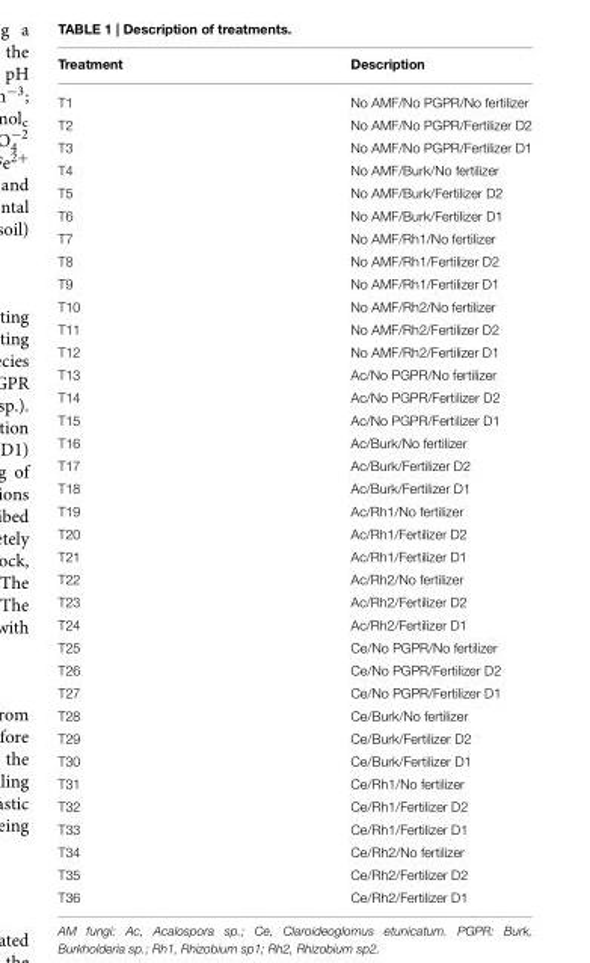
<table><thead><tr><td>Treatment</td><td>Description</td></tr></thead><tbody><tr><td>T1</td><td>No AMF/No PGPR/No fertilizer</td></tr><tr><td>T2</td><td>No AMF/No PGPR/Fertilizer D2</td></tr><tr><td>T3</td><td>No AMF/No PGPR/Fertilizer D1</td></tr><tr><td>T4</td><td>No AMF/Burk/No fertilizer</td></tr><tr><td>T5</td><td>No AMF/Burk/Fertilizer D2</td></tr><tr><td>T6</td><td>No AMF/Burk/Fertilizer D1</td></tr><tr><td>T7</td><td>No AMF/Rh1/No fertilizer</td></tr><tr><td>T8</td><td>No AMF/Rh1/Fertilizer D2</td></tr><tr><td>T9</td><td>No AMF/Rh1/Fertilizer D1</td></tr><tr><td>T10</td><td>No AMF/Rh2/No fertilizer</td></tr><tr><td>T11</td><td>No AMF/Rh2/Fertilizer D2</td></tr><tr><td>T12</td><td>No AMF/Rh2/Fertilizer D1</td></tr><tr><td>T13</td><td>Ac/No PGPR/No fertilizer</td></tr><tr><td>T14</td><td>Ac/No PGPR/Fertilizer D2</td></tr><tr><td>T15</td><td>Ac/No PGPR/Fertilizer D1</td></tr><tr><td>T16</td><td>Ac/Burk/No fertilizer</td></tr><tr><td>T17</td><td>Ac/Burk/Fertilizer D2</td></tr><tr><td>T18</td><td>Ac/Burk/Fertilizer D1</td></tr><tr><td>T19</td><td>Ac/Rh1/No fertilizer</td></tr><tr><td>T20</td><td>Ac/Rh1/Fertilizer D2</td></tr><tr><td>T21</td><td>Ac/Rh1/Fertilizer D1</td></tr><tr><td>T22</td><td>Ac/Rh2/No fertilizer</td></tr><tr><td>T23</td><td>Ac/Rh2/Fertilizer D2</td></tr><tr><td>T24</td><td>Ac/Rh2/Fertilizer D1</td></tr><tr><td>T25</td><td>Ce/No PGPR/No fertilizer</td></tr><tr><td>T26</td><td>Ce/No PGPR/Fertilizer D2</td></tr><tr><td>T27</td><td>Ce/No PGPR/Fertilizer D1</td></tr><tr><td>T28</td><td>Ce/Burk/No fertilizer</td></tr><tr><td>T29</td><td>Ce/Burk/Fertilizer D2</td></tr><tr><td>T30</td><td>Ce/Burk/Fertilizer D1</td></tr><tr><td>T31</td><td>Ce/Rh1/No fertilizer</td></tr><tr><td>T32</td><td>Ce/Rh1/Fertilizer D2</td></tr><tr><td>T33</td><td>Ce/Rh1/Fertilizer D1</td></tr><tr><td>T34</td><td>Ce/Rh2/No fertilizer</td></tr><tr><td>T35</td><td>Ce/Rh2/Fertilizer D2</td></tr><tr><td>T36</td><td>Ce/Rh2/Fertilizer D1</td></tr></tbody></table>